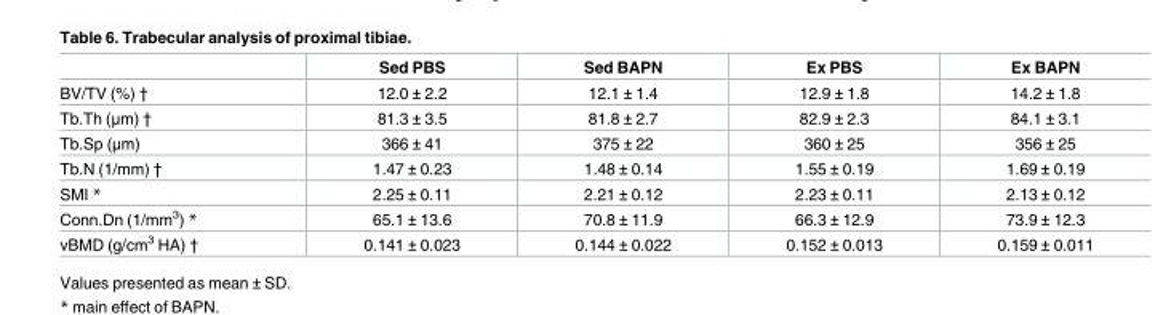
<table><thead><tr><td></td><td>Sed PBS</td><td>Sed BAPN</td><td>Ex PBS</td><td>Ex BAPN</td></tr></thead><tbody><tr><td>BV/TV (%) †</td><td>12.0 ± 2.2</td><td>12.1 ± 1.4</td><td>12.9 ± 1.8</td><td>14.2 ± 1.8</td></tr><tr><td>Tb.Th (μm) †</td><td>81.3 ± 3.5</td><td>81.8 ± 2.7</td><td>82.9 ± 2.3</td><td>84.1 ± 3.1</td></tr><tr><td>Tb.Sp (μm)</td><td>366 ± 41</td><td>375 ± 22</td><td>360 ± 25</td><td>356 ± 25</td></tr><tr><td>Tb.N (1/mm) †</td><td>1.47 ± 0.23</td><td>1.48 ± 0.14</td><td>1.55 ± 0.19</td><td>1.69 ± 0.19</td></tr><tr><td>SMI *</td><td>2.25 ± 0.11</td><td>2.21 ± 0.12</td><td>2.23 ± 0.11</td><td>2.13 ± 0.12</td></tr><tr><td>Conn.Dn (1/mm<sup>3</sup>) *</td><td>65.1 ± 13.6</td><td>70.8 ± 11.9</td><td>66.3 ± 12.9</td><td>73.9 ± 12.3</td></tr><tr><td>vBMD (g/cm<sup>3</sup> HA) †</td><td>0.141 ± 0.023</td><td>0.144 ± 0.022</td><td>0.152 ± 0.013</td><td>0.159 ± 0.011</td></tr></tbody></table>